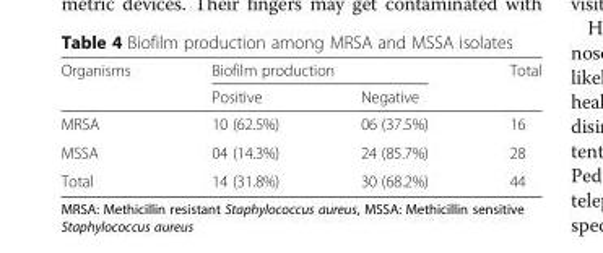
<table><thead><tr><td rowspan="2">Organisms</td><td colspan="2">Biofilm production</td><td rowspan="2">Total</td></tr><tr><td>Positive</td><td>Negative</td></tr></thead><tbody><tr><td>MRSA</td><td>10 (62.5%)</td><td>06 (37.5%)</td><td>16</td></tr><tr><td>MSSA</td><td>04 (14.3%)</td><td>24 (85.7%)</td><td>28</td></tr><tr><td>Total</td><td>14 (31.8%)</td><td>30 (68.2%)</td><td>44</td></tr></tbody></table>